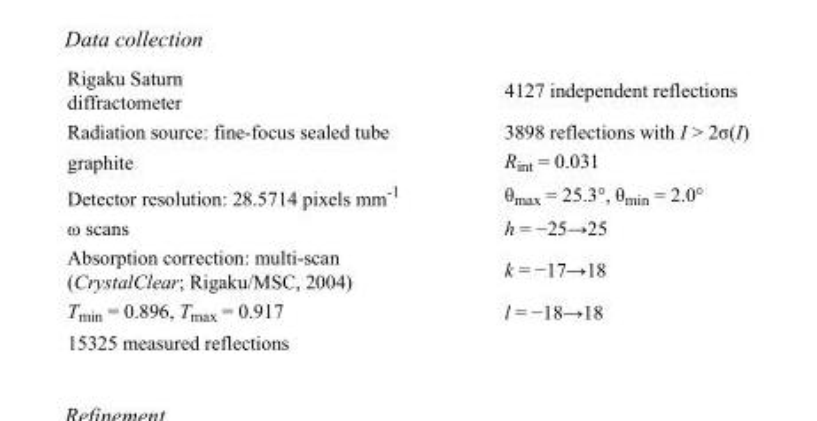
<table><tbody><tr><td>Rigaku Saturn diffractometer</td><td>4127 independent reflections</td></tr><tr><td>Radiation source: fine-focus sealed tube</td><td>3898 reflections with I &gt; 2σ(I)</td></tr><tr><td>graphite</td><td>R<sub>int</sub> = 0.031</td></tr><tr><td>Detector resolution: 28.5714 pixels mm<sup>-1</sup></td><td>θ<sub>max</sub> = 25.3°, θ<sub>min</sub> = 2.0°</td></tr><tr><td>ω scans</td><td>h = −25→25</td></tr><tr><td>Absorption correction: multi-scan (CrystalClear; Rigaku/MSC, 2004)</td><td>k = −17→18</td></tr><tr><td>T<sub>min</sub> = 0.896, T<sub>max</sub> = 0.917</td><td>l = −18→18</td></tr><tr><td>15325 measured reflections</td><td></td></tr></tbody></table>